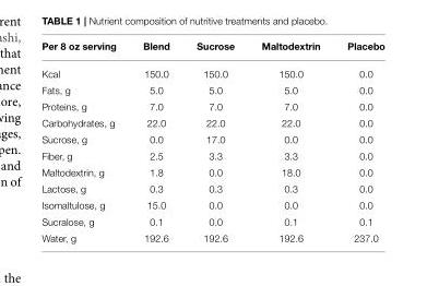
<table><thead><tr><td>Per 8 oz serving</td><td>Blend</td><td>Sucrose</td><td>Maltodextrin</td><td>Placebo</td></tr></thead><tbody><tr><td>Kcal</td><td>150.0</td><td>150.0</td><td>150.0</td><td>0.0</td></tr><tr><td>Fats, g</td><td>5.0</td><td>5.0</td><td>5.0</td><td>0.0</td></tr><tr><td>Proteins, g</td><td>7.0</td><td>7.0</td><td>7.0</td><td>0.0</td></tr><tr><td>Carbohydrates, g</td><td>22.0</td><td>22.0</td><td>22.0</td><td>0.0</td></tr><tr><td>Sucrose, g</td><td>0.0</td><td>17.0</td><td>0.0</td><td>0.0</td></tr><tr><td>Fiber, g</td><td>2.5</td><td>3.3</td><td>3.3</td><td>0.0</td></tr><tr><td>Maltodextrin, g</td><td>1.8</td><td>0.0</td><td>18.0</td><td>0.0</td></tr><tr><td>Lactose, g</td><td>0.3</td><td>0.3</td><td>0.3</td><td>0.0</td></tr><tr><td>Isomaltulose, g</td><td>15.0</td><td>0.0</td><td>0.0</td><td>0.0</td></tr><tr><td>Sucralose, g</td><td>0.1</td><td>0.0</td><td>0.1</td><td>0.1</td></tr><tr><td>Water, g</td><td>192.6</td><td>192.6</td><td>192.6</td><td>237.0</td></tr></tbody></table>